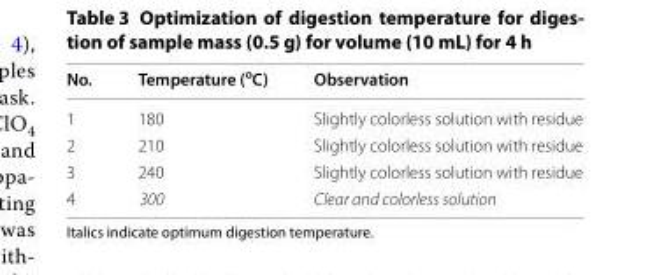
<table><thead><tr><td>No.</td><td>Temperature (<sup>o</sup>C)</td><td>Observation</td></tr></thead><tbody><tr><td>1</td><td>180</td><td>Slightly colorless solution with residue</td></tr><tr><td>2</td><td>210</td><td>Slightly colorless solution with residue</td></tr><tr><td>3</td><td>240</td><td>Slightly colorless solution with residue</td></tr><tr><td>4</td><td>300</td><td>Clear and colorless solution</td></tr></tbody></table>